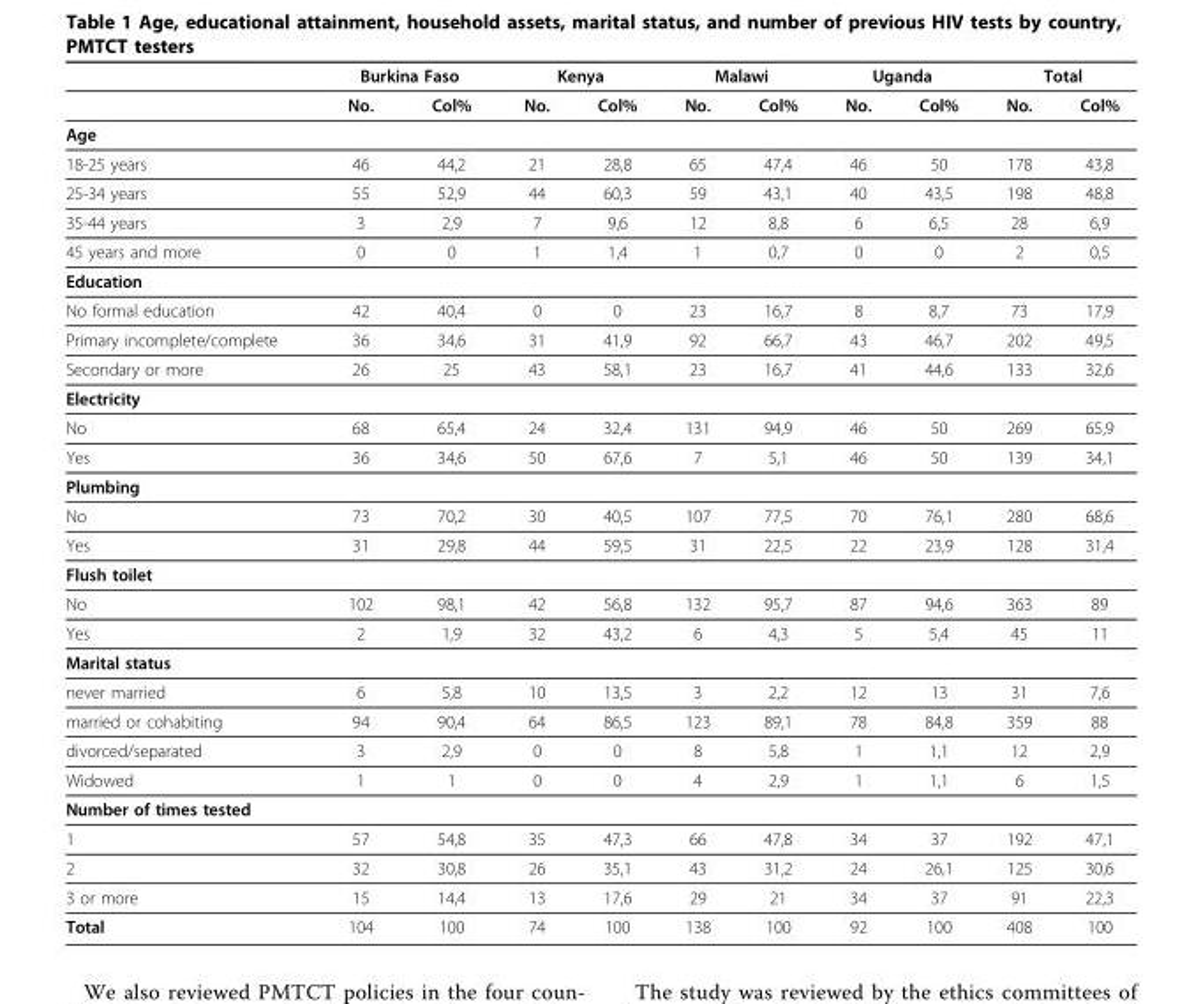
<table><thead><tr><td rowspan="2"></td><td colspan="2">Burkina Faso</td><td colspan="2">Kenya</td><td colspan="2">Malawi</td><td colspan="2">Uganda</td><td colspan="2">Total</td></tr><tr><td>No.</td><td>Col%</td><td>No.</td><td>Col%</td><td>No.</td><td>Col%</td><td>No.</td><td>Col%</td><td>No.</td><td>Col%</td></tr></thead><tbody><tr><td colspan="11">Age</td></tr><tr><td>18-25 years</td><td>46</td><td>44,2</td><td>21</td><td>28,8</td><td>65</td><td>47,4</td><td>46</td><td>50</td><td>178</td><td>43,8</td></tr><tr><td>25-34 years</td><td>55</td><td>52,9</td><td>44</td><td>60,3</td><td>59</td><td>43,1</td><td>40</td><td>43,5</td><td>198</td><td>48,8</td></tr><tr><td>35-44 years</td><td>3</td><td>2,9</td><td>7</td><td>9,6</td><td>12</td><td>8,8</td><td>6</td><td>6,5</td><td>28</td><td>6,9</td></tr><tr><td>45 years and more</td><td>0</td><td>0</td><td>1</td><td>1,4</td><td>1</td><td>0,7</td><td>0</td><td>0</td><td>2</td><td>0,5</td></tr><tr><td colspan="11">Education</td></tr><tr><td>No formal education</td><td>42</td><td>40,4</td><td>0</td><td>0</td><td>23</td><td>16,7</td><td>8</td><td>8,7</td><td>73</td><td>17,9</td></tr><tr><td>Primary incomplete/complete</td><td>36</td><td>34,6</td><td>31</td><td>41,9</td><td>92</td><td>66,7</td><td>43</td><td>46,7</td><td>202</td><td>49,5</td></tr><tr><td>Secondary or more</td><td>26</td><td>25</td><td>43</td><td>58,1</td><td>23</td><td>16,7</td><td>41</td><td>44,6</td><td>133</td><td>32,6</td></tr><tr><td colspan="11">Electricity</td></tr><tr><td>No</td><td>68</td><td>65,4</td><td>24</td><td>32,4</td><td>131</td><td>94,9</td><td>46</td><td>50</td><td>269</td><td>65,9</td></tr><tr><td>Yes</td><td>36</td><td>34,6</td><td>50</td><td>67,6</td><td>7</td><td>5,1</td><td>46</td><td>50</td><td>139</td><td>34,1</td></tr><tr><td colspan="11">Plumbing</td></tr><tr><td>No</td><td>73</td><td>70,2</td><td>30</td><td>40,5</td><td>107</td><td>77,5</td><td>70</td><td>76,1</td><td>280</td><td>68,6</td></tr><tr><td>Yes</td><td>31</td><td>29,8</td><td>44</td><td>59,5</td><td>31</td><td>22,5</td><td>22</td><td>23,9</td><td>128</td><td>31,4</td></tr><tr><td colspan="11">Flush toilet</td></tr><tr><td>No</td><td>102</td><td>98,1</td><td>42</td><td>56,8</td><td>132</td><td>95,7</td><td>87</td><td>94,6</td><td>363</td><td>89</td></tr><tr><td>Yes</td><td>2</td><td>1,9</td><td>32</td><td>43,2</td><td>6</td><td>4,3</td><td>5</td><td>5,4</td><td>45</td><td>11</td></tr><tr><td colspan="11">Marital status</td></tr><tr><td>never married</td><td>6</td><td>5,8</td><td>10</td><td>13,5</td><td>3</td><td>2,2</td><td>12</td><td>13</td><td>31</td><td>7,6</td></tr><tr><td>married or cohabiting</td><td>94</td><td>90,4</td><td>64</td><td>86,5</td><td>123</td><td>89,1</td><td>78</td><td>84,8</td><td>359</td><td>88</td></tr><tr><td>divorced/separated</td><td>3</td><td>2,9</td><td>0</td><td>0</td><td>8</td><td>5,8</td><td>1</td><td>1,1</td><td>12</td><td>2,9</td></tr><tr><td>Widowed</td><td>1</td><td>1</td><td>0</td><td>0</td><td>4</td><td>2,9</td><td>1</td><td>1,1</td><td>6</td><td>1,5</td></tr><tr><td colspan="11">Number of times tested</td></tr><tr><td>1</td><td>57</td><td>54,8</td><td>35</td><td>47,3</td><td>66</td><td>47,8</td><td>34</td><td>37</td><td>192</td><td>47,1</td></tr><tr><td>2</td><td>32</td><td>30,8</td><td>26</td><td>35,1</td><td>43</td><td>31,2</td><td>24</td><td>26,1</td><td>125</td><td>30,6</td></tr><tr><td>3 or more</td><td>15</td><td>14,4</td><td>13</td><td>17,6</td><td>29</td><td>21</td><td>34</td><td>37</td><td>91</td><td>22,3</td></tr><tr><td>Total</td><td>104</td><td>100</td><td>74</td><td>100</td><td>138</td><td>100</td><td>92</td><td>100</td><td>408</td><td>100</td></tr></tbody></table>